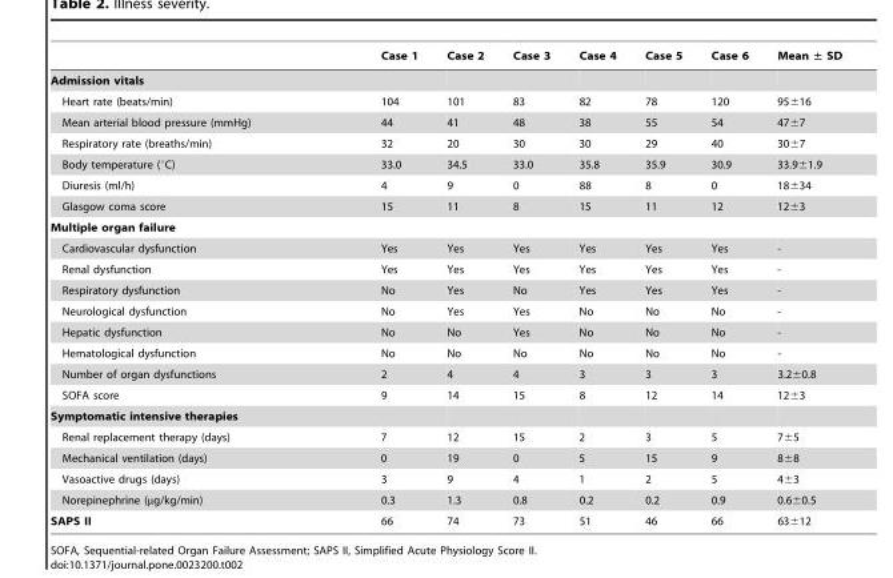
<table><thead><tr><td></td><td>Case 1</td><td>Case 2</td><td>Case 3</td><td>Case 4</td><td>Case 5</td><td>Case 6</td><td>Mean ± SD</td></tr></thead><tbody><tr><td colspan="8">Admission vitals</td></tr><tr><td>Heart rate (beats/min)</td><td>104</td><td>101</td><td>83</td><td>82</td><td>78</td><td>120</td><td>95±16</td></tr><tr><td>Mean arterial blood pressure (mmHg)</td><td>44</td><td>41</td><td>48</td><td>38</td><td>55</td><td>54</td><td>47±7</td></tr><tr><td>Respiratory rate (breaths/min)</td><td>32</td><td>20</td><td>30</td><td>30</td><td>29</td><td>40</td><td>30±7</td></tr><tr><td>Body temperature (°C)</td><td>33.0</td><td>34.5</td><td>33.0</td><td>35.8</td><td>35.9</td><td>30.9</td><td>33.9±1.9</td></tr><tr><td>Diuresis (ml/h)</td><td>4</td><td>9</td><td>0</td><td>88</td><td>8</td><td>0</td><td>18±34</td></tr><tr><td>Glasgow coma score</td><td>15</td><td>11</td><td>8</td><td>15</td><td>11</td><td>12</td><td>12±3</td></tr><tr><td colspan="8">Multiple organ failure</td></tr><tr><td>Cardiovascular dysfunction</td><td>Yes</td><td>Yes</td><td>Yes</td><td>Yes</td><td>Yes</td><td>Yes</td><td>-</td></tr><tr><td>Renal dysfunction</td><td>Yes</td><td>Yes</td><td>Yes</td><td>Yes</td><td>Yes</td><td>Yes</td><td>-</td></tr><tr><td>Respiratory dysfunction</td><td>No</td><td>Yes</td><td>No</td><td>Yes</td><td>Yes</td><td>Yes</td><td>-</td></tr><tr><td>Neurological dysfunction</td><td>No</td><td>Yes</td><td>Yes</td><td>No</td><td>No</td><td>No</td><td>-</td></tr><tr><td>Hepatic dysfunction</td><td>No</td><td>No</td><td>Yes</td><td>No</td><td>No</td><td>No</td><td>-</td></tr><tr><td>Hematological dysfunction</td><td>No</td><td>No</td><td>No</td><td>No</td><td>No</td><td>No</td><td>-</td></tr><tr><td>Number of organ dysfunctions</td><td>2</td><td>4</td><td>4</td><td>3</td><td>3</td><td>3</td><td>3.2±0.8</td></tr><tr><td>SOFA score</td><td>9</td><td>14</td><td>15</td><td>8</td><td>12</td><td>14</td><td>12±3</td></tr><tr><td colspan="8">Symptomatic intensive therapies</td></tr><tr><td>Renal replacement therapy (days)</td><td>7</td><td>12</td><td>15</td><td>2</td><td>3</td><td>5</td><td>7±5</td></tr><tr><td>Mechanical ventilation (days)</td><td>0</td><td>19</td><td>0</td><td>5</td><td>15</td><td>9</td><td>8±8</td></tr><tr><td>Vasoactive drugs (days)</td><td>3</td><td>9</td><td>4</td><td>1</td><td>2</td><td>5</td><td>4±3</td></tr><tr><td>Norepinephrine (µg/kg/min)</td><td>0.3</td><td>1.3</td><td>0.8</td><td>0.2</td><td>0.2</td><td>0.9</td><td>0.6±0.5</td></tr><tr><td>SAPS II</td><td>66</td><td>74</td><td>73</td><td>51</td><td>46</td><td>66</td><td>63±12</td></tr></tbody></table>